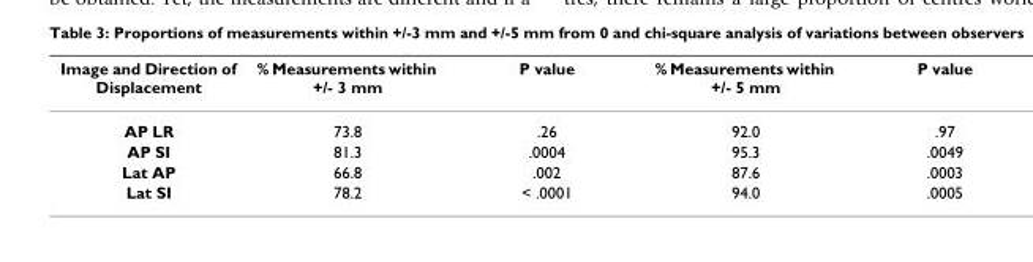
<table><thead><tr><td>Image and Direction of Displacement</td><td>% Measurements within +/- 3 mm</td><td>P value</td><td>% Measurements within +/- 5 mm</td><td>P value</td></tr></thead><tbody><tr><td>AP LR</td><td>73.8</td><td>.26</td><td>92.0</td><td>.97</td></tr><tr><td>AP SI</td><td>81.3</td><td>.0004</td><td>95.3</td><td>.0049</td></tr><tr><td>Lat AP</td><td>66.8</td><td>.002</td><td>87.6</td><td>.0003</td></tr><tr><td>Lat SI</td><td>78.2</td><td>&lt; .0001</td><td>94.0</td><td>.0005</td></tr></tbody></table>